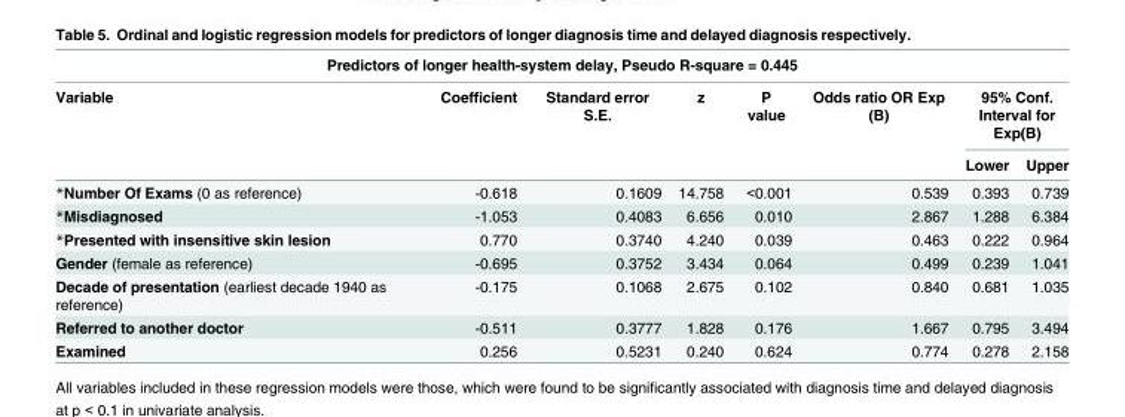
<table><thead><tr><td colspan="8">Predictors of longer health-system delay, Pseudo R-square = 0.445</td></tr><tr><td rowspan="2">Variable</td><td rowspan="2">Coefficient</td><td rowspan="2">Standard error S.E.</td><td rowspan="2">z</td><td rowspan="2">P value</td><td rowspan="2">Odds ratio OR Exp (B)</td><td colspan="2">95% Conf. Interval for Exp(B)</td></tr><tr><td>Lower</td><td>Upper</td></tr></thead><tbody><tr><td>*Number Of Exams (0 as reference)</td><td>-0.618</td><td>0.1609</td><td>14.758</td><td>&lt;0.001</td><td>0.539</td><td>0.393</td><td>0.739</td></tr><tr><td>*Misdiagnosed</td><td>-1.053</td><td>0.4083</td><td>6.656</td><td>0.010</td><td>2.867</td><td>1.288</td><td>6.384</td></tr><tr><td>*Presented with insensitive skin lesion</td><td>0.770</td><td>0.3740</td><td>4.240</td><td>0.039</td><td>0.463</td><td>0.222</td><td>0.964</td></tr><tr><td>Gender (female as reference)</td><td>-0.695</td><td>0.3752</td><td>3.434</td><td>0.064</td><td>0.499</td><td>0.239</td><td>1.041</td></tr><tr><td>Decade of presentation (earliest decade 1940 as reference)</td><td>-0.175</td><td>0.1068</td><td>2.675</td><td>0.102</td><td>0.840</td><td>0.681</td><td>1.035</td></tr><tr><td>Referred to another doctor</td><td>-0.511</td><td>0.3777</td><td>1.828</td><td>0.176</td><td>1.667</td><td>0.795</td><td>3.494</td></tr><tr><td>Examined</td><td>0.256</td><td>0.5231</td><td>0.240</td><td>0.624</td><td>0.774</td><td>0.278</td><td>2.158</td></tr></tbody></table>